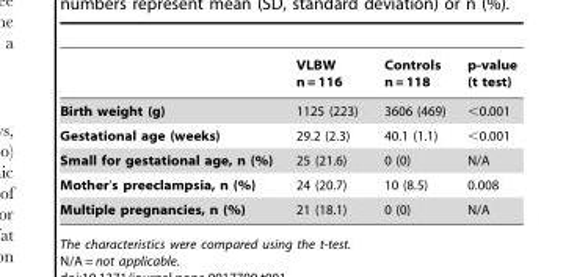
<table><thead><tr><td></td><td>VLBW n = 116</td><td>Controls n = 118</td><td>p-value (t test)</td></tr></thead><tbody><tr><td>Birth weight (g)</td><td>1125 (223)</td><td>3606 (469)</td><td>&lt;0.001</td></tr><tr><td>Gestational age (weeks)</td><td>29.2 (2.3)</td><td>40.1 (1.1)</td><td>&lt;0.001</td></tr><tr><td>Small for gestational age, n (%)</td><td>25 (21.6)</td><td>0 (0)</td><td>N/A</td></tr><tr><td>Mother’s preeclampsia, n (%)</td><td>24 (20.7)</td><td>10 (8.5)</td><td>0.008</td></tr><tr><td>Multiple pregnancies, n (%)</td><td>21 (18.1)</td><td>0 (0)</td><td>N/A</td></tr></tbody></table>